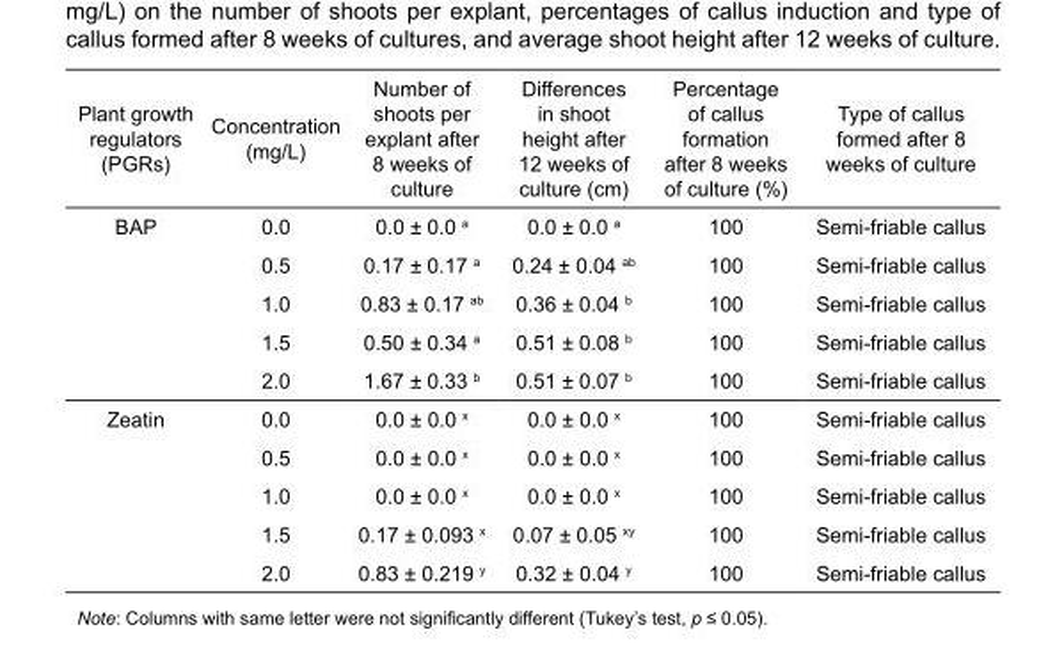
<table><thead><tr><td>Plant growth regulators (PGRs)</td><td>Concentration (mg/L)</td><td>Number of shoots per explant after 8 weeks of culture</td><td>Differences in shoot height after 12 weeks of culture (cm)</td><td>Percentage of callus formation after 8 weeks of culture (%)</td><td>Type of callus formed after 8 weeks of culture</td></tr></thead><tbody><tr><td rowspan="5">BAP</td><td>0.0</td><td>0.0 ± 0.0 <sup>a</sup></td><td>0.0 ± 0.0 <sup>a</sup></td><td>100</td><td>Semi-friable callus</td></tr><tr><td>0.5</td><td>0.17 ± 0.17 <sup>a</sup></td><td>0.24 ± 0.04 <sup>ab</sup></td><td>100</td><td>Semi-friable callus</td></tr><tr><td>1.0</td><td>0.83 ± 0.17 <sup>ab</sup></td><td>0.36 ± 0.04 <sup>b</sup></td><td>100</td><td>Semi-friable callus</td></tr><tr><td>1.5</td><td>0.50 ± 0.34 <sup>a</sup></td><td>0.51 ± 0.08 <sup>b</sup></td><td>100</td><td>Semi-friable callus</td></tr><tr><td>2.0</td><td>1.67 ± 0.33 <sup>b</sup></td><td>0.51 ± 0.07 <sup>b</sup></td><td>100</td><td>Semi-friable callus</td></tr><tr><td rowspan="5">Zeatin</td><td>0.0</td><td>0.0 ± 0.0 <sup>x</sup></td><td>0.0 ± 0.0 <sup>x</sup></td><td>100</td><td>Semi-friable callus</td></tr><tr><td>0.5</td><td>0.0 ± 0.0 <sup>x</sup></td><td>0.0 ± 0.0 <sup>x</sup></td><td>100</td><td>Semi-friable callus</td></tr><tr><td>1.0</td><td>0.0 ± 0.0 <sup>x</sup></td><td>0.0 ± 0.0 <sup>x</sup></td><td>100</td><td>Semi-friable callus</td></tr><tr><td>1.5</td><td>0.17 ± 0.093 <sup>x</sup></td><td>0.07 ± 0.05 <sup>xy</sup></td><td>100</td><td>Semi-friable callus</td></tr><tr><td>2.0</td><td>0.83 ± 0.219 <sup>y</sup></td><td>0.32 ± 0.04 <sup>y</sup></td><td>100</td><td>Semi-friable callus</td></tr></tbody></table>